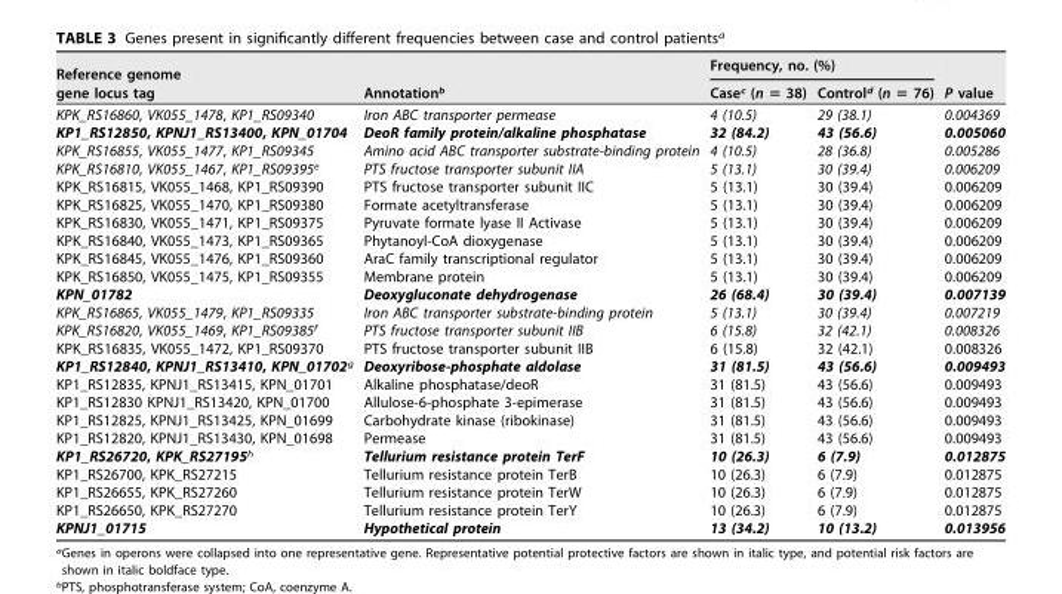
<table><thead><tr><td rowspan="2">Reference genome gene locus tag</td><td rowspan="2">Annotation<sup>b</sup></td><td colspan="2">Frequency, no. (%)</td><td rowspan="2">P value</td></tr><tr><td>Case<sup>c</sup> (n = 38)</td><td>Control<sup>d</sup> (n = 76)</td></tr></thead><tbody><tr><td>KPK_RS16860, VK055_1478, KP1_RS09340</td><td>Iron ABC transporter permease</td><td>4 (10.5)</td><td>29 (38.1)</td><td>0.004369</td></tr><tr><td>KP1_RS12850, KPNJ1_RS13400, KPN_01704</td><td>DeoR family protein/alkaline phosphatase</td><td>32 (84.2)</td><td>43 (56.6)</td><td>0.005060</td></tr><tr><td>KPK_RS16855, VK055_1477, KP1_RS09345</td><td>Amino acid ABC transporter substrate-binding protein</td><td>4 (10.5)</td><td>28 (36.8)</td><td>0.005286</td></tr><tr><td>KPK_RS16810, VK055_1467, KP1_RS09395<sup>e</sup></td><td>PTS fructose transporter subunit IIA</td><td>5 (13.1)</td><td>30 (39.4)</td><td>0.006209</td></tr><tr><td>KPK_RS16815, VK055_1468, KP1_RS09390</td><td>PTS fructose transporter subunit IIC</td><td>5 (13.1)</td><td>30 (39.4)</td><td>0.006209</td></tr><tr><td>KPK_RS16825, VK055_1470, KP1_RS09380</td><td>Formate acetyltransferase</td><td>5 (13.1)</td><td>30 (39.4)</td><td>0.006209</td></tr><tr><td>KPK_RS16830, VK055_1471, KP1_RS09375</td><td>Pyruvate formate lyase II Activase</td><td>5 (13.1)</td><td>30 (39.4)</td><td>0.006209</td></tr><tr><td>KPK_RS16840, VK055_1473, KP1_RS09365</td><td>Phytanoyl-CoA dioxygenase</td><td>5 (13.1)</td><td>30 (39.4)</td><td>0.006209</td></tr><tr><td>KPK_RS16845, VK055_1476, KP1_RS09360</td><td>AraC family transcriptional regulator</td><td>5 (13.1)</td><td>30 (39.4)</td><td>0.006209</td></tr><tr><td>KPK_RS16850, VK055_1475, KP1_RS09355</td><td>Membrane protein</td><td>5 (13.1)</td><td>30 (39.4)</td><td>0.006209</td></tr><tr><td>KPN_01782</td><td>Deoxygluconate dehydrogenase</td><td>26 (68.4)</td><td>30 (39.4)</td><td>0.007139</td></tr><tr><td>KPK_RS16865, VK055_1479, KP1_RS09335</td><td>Iron ABC transporter substrate-binding protein</td><td>5 (13.1)</td><td>30 (39.4)</td><td>0.007219</td></tr><tr><td>KPK_RS16820, VK055_1469, KP1_RS09385<sup>f</sup></td><td>PTS fructose transporter subunit IIB</td><td>6 (15.8)</td><td>32 (42.1)</td><td>0.008326</td></tr><tr><td>KPK_RS16835, VK055_1472, KP1_RS09370</td><td>PTS fructose transporter subunit IIB</td><td>6 (15.8)</td><td>32 (42.1)</td><td>0.008326</td></tr><tr><td>KP1_RS12840, KPNJ1_RS13410, KPN_01702<sup>g</sup></td><td>Deoxyribose-phosphate aldolase</td><td>31 (81.5)</td><td>43 (56.6)</td><td>0.009493</td></tr><tr><td>KP1_RS12835, KPNJ1_RS13415, KPN_01701</td><td>Alkaline phosphatase/deoR</td><td>31 (81.5)</td><td>43 (56.6)</td><td>0.009493</td></tr><tr><td>KP1_RS12830 KPNJ1_RS13420, KPN_01700</td><td>Allulose-6-phosphate 3-epimerase</td><td>31 (81.5)</td><td>43 (56.6)</td><td>0.009493</td></tr><tr><td>KP1_RS12825, KPNJ1_RS13425, KPN_01699</td><td>Carbohydrate kinase (ribokinase)</td><td>31 (81.5)</td><td>43 (56.6)</td><td>0.009493</td></tr><tr><td>KP1_RS12820, KPNJ1_RS13430, KPN_01698</td><td>Permease</td><td>31 (81.5)</td><td>43 (56.6)</td><td>0.009493</td></tr><tr><td>KP1_RS26720, KPK_RS27195<sup>h</sup></td><td>Tellurium resistance protein TerF</td><td>10 (26.3)</td><td>6 (7.9)</td><td>0.012875</td></tr><tr><td>KP1_RS26700, KPK_RS27215</td><td>Tellurium resistance protein TerB</td><td>10 (26.3)</td><td>6 (7.9)</td><td>0.012875</td></tr><tr><td>KP1_RS26655, KPK_RS27260</td><td>Tellurium resistance protein TerW</td><td>10 (26.3)</td><td>6 (7.9)</td><td>0.012875</td></tr><tr><td>KP1_RS26650, KPK_RS27270</td><td>Tellurium resistance protein TerY</td><td>10 (26.3)</td><td>6 (7.9)</td><td>0.012875</td></tr><tr><td>KPNJ1_01715</td><td>Hypothetical protein</td><td>13 (34.2)</td><td>10 (13.2)</td><td>0.013956</td></tr></tbody></table>